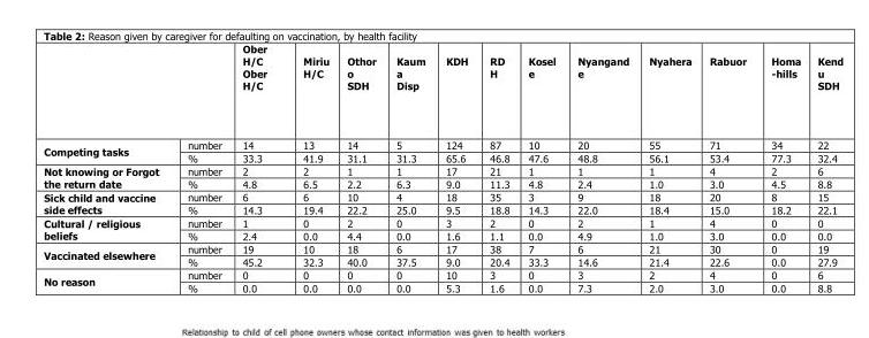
<table><thead><tr><td></td><td></td><td>Ober H/C Ober H/C</td><td>Miriu H/C</td><td>Othor o SDH</td><td>Kaum a Disp</td><td>KDH</td><td>RD H</td><td>Kosel e</td><td>Nyangand e</td><td>Nyahera</td><td>Rabuor</td><td>Homa -hills</td><td>Kend u SDH</td></tr></thead><tbody><tr><td rowspan="2">Competing tasks</td><td>number</td><td>14</td><td>13</td><td>14</td><td>5</td><td>124</td><td>87</td><td>10</td><td>20</td><td>55</td><td>71</td><td>34</td><td>22</td></tr><tr><td>%</td><td>33.3</td><td>41.9</td><td>31.1</td><td>31.3</td><td>65.6</td><td>46.8</td><td>47.6</td><td>48.8</td><td>56.1</td><td>53.4</td><td>77.3</td><td>32.4</td></tr><tr><td rowspan="2">Not knowing or Forgot the return date</td><td>number</td><td>2</td><td>2</td><td>1</td><td>1</td><td>17</td><td>21</td><td>1</td><td>1</td><td>1</td><td>4</td><td>2</td><td>6</td></tr><tr><td>%</td><td>4.8</td><td>6.5</td><td>2.2</td><td>6.3</td><td>9.0</td><td>11.3</td><td>4.8</td><td>2.4</td><td>1.0</td><td>3.0</td><td>4.5</td><td>8.8</td></tr><tr><td rowspan="2">Sick child and vaccine side effects</td><td>number</td><td>6</td><td>6</td><td>10</td><td>4</td><td>18</td><td>35</td><td>3</td><td>9</td><td>18</td><td>20</td><td>8</td><td>15</td></tr><tr><td>%</td><td>14.3</td><td>19.4</td><td>22.2</td><td>25.0</td><td>9.5</td><td>18.8</td><td>14.3</td><td>22.0</td><td>18.4</td><td>15.0</td><td>18.2</td><td>22.1</td></tr><tr><td rowspan="2">Cultural / religious beliefs</td><td>number</td><td>1</td><td>0</td><td>2</td><td>0</td><td>3</td><td>2</td><td>0</td><td>2</td><td>1</td><td>4</td><td>0</td><td>0</td></tr><tr><td>%</td><td>2.4</td><td>0.0</td><td>4.4</td><td>0.0</td><td>1.6</td><td>1.1</td><td>0.0</td><td>4.9</td><td>1.0</td><td>3.0</td><td>0.0</td><td>0.0</td></tr><tr><td rowspan="2">Vaccinated elsewhere</td><td>number</td><td>19</td><td>10</td><td>18</td><td>6</td><td>17</td><td>38</td><td>7</td><td>6</td><td>21</td><td>30</td><td>0</td><td>19</td></tr><tr><td>%</td><td>45.2</td><td>32.3</td><td>40.0</td><td>37.5</td><td>9.0</td><td>20.4</td><td>33.3</td><td>14.6</td><td>21.4</td><td>22.6</td><td>0.0</td><td>27.9</td></tr><tr><td rowspan="2">No reason</td><td>number</td><td>0</td><td>0</td><td>0</td><td>0</td><td>10</td><td>3</td><td>0</td><td>3</td><td>2</td><td>4</td><td>0</td><td>6</td></tr><tr><td>%</td><td>0.0</td><td>0.0</td><td>0.0</td><td>0.0</td><td>5.3</td><td>1.6</td><td>0.0</td><td>7.3</td><td>2.0</td><td>3.0</td><td>0.0</td><td>8.8</td></tr></tbody></table>